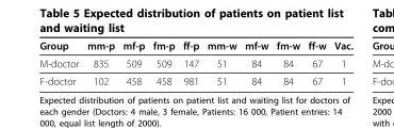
<table><thead><tr><td>Group</td><td>mm-p</td><td>mf-p</td><td>fm-p</td><td>ff-p</td><td>mm-w</td><td>mf-w</td><td>fm-w</td><td>ff-w</td><td>Vac.</td></tr></thead><tbody><tr><td>M-doctor</td><td>835</td><td>509</td><td>509</td><td>147</td><td>51</td><td>84</td><td>84</td><td>67</td><td>1</td></tr><tr><td>F-doctor</td><td>102</td><td>458</td><td>458</td><td>981</td><td>51</td><td>84</td><td>84</td><td>67</td><td>1</td></tr></tbody></table>